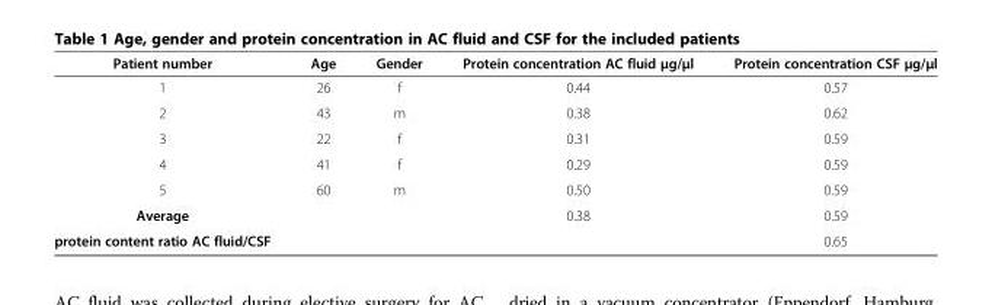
<table><thead><tr><td>Patient number</td><td>Age</td><td>Gender</td><td>Protein concentration AC fluid μg/μl</td><td>Protein concentration CSF μg/μl</td></tr></thead><tbody><tr><td>1</td><td>26</td><td>f</td><td>0.44</td><td>0.57</td></tr><tr><td>2</td><td>43</td><td>m</td><td>0.38</td><td>0.62</td></tr><tr><td>3</td><td>22</td><td>f</td><td>0.31</td><td>0.59</td></tr><tr><td>4</td><td>41</td><td>f</td><td>0.29</td><td>0.59</td></tr><tr><td>5</td><td>60</td><td>m</td><td>0.50</td><td>0.59</td></tr><tr><td>Average</td><td></td><td></td><td>0.38</td><td>0.59</td></tr><tr><td>protein content ratio AC fluid/CSF</td><td></td><td></td><td></td><td>0.65</td></tr></tbody></table>